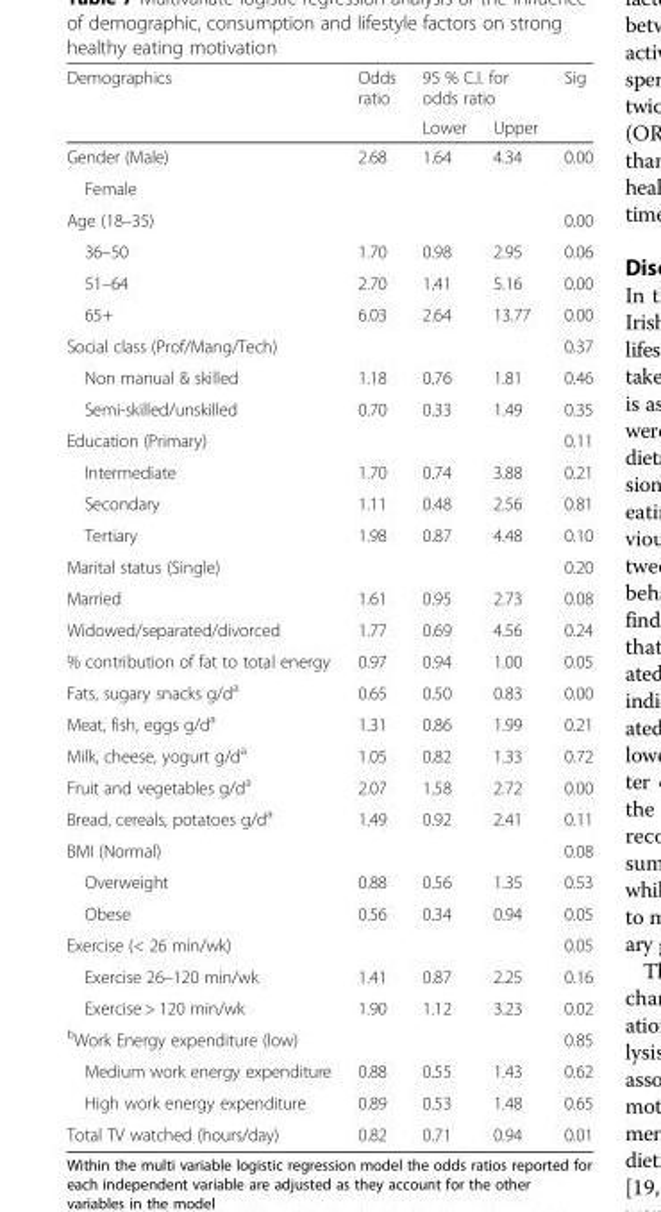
<table><thead><tr><td rowspan="2">Demographics</td><td rowspan="2">Odds ratio</td><td colspan="2">95 % C.I. for odds ratio</td><td rowspan="2">Sig</td></tr><tr><td>Lower</td><td>Upper</td></tr></thead><tbody><tr><td>Gender (Male)</td><td rowspan="2">2.68</td><td rowspan="2">1.64</td><td rowspan="2">4.34</td><td rowspan="2">0.00</td></tr><tr><td>Female</td></tr><tr><td>Age (18–35)</td><td></td><td></td><td></td><td>0.00</td></tr><tr><td>36–50</td><td>1.70</td><td>0.98</td><td>2.95</td><td>0.06</td></tr><tr><td>51–64</td><td>2.70</td><td>1.41</td><td>5.16</td><td>0.00</td></tr><tr><td>65+</td><td>6.03</td><td>2.64</td><td>13.77</td><td>0.00</td></tr><tr><td>Social class (Prof/Mang/Tech)</td><td></td><td></td><td></td><td>0.37</td></tr><tr><td>Non manual &amp; skilled</td><td>1.18</td><td>0.76</td><td>1.81</td><td>0.46</td></tr><tr><td>Semi-skilled/unskilled</td><td>0.70</td><td>0.33</td><td>1.49</td><td>0.35</td></tr><tr><td>Education (Primary)</td><td></td><td></td><td></td><td>0.11</td></tr><tr><td>Intermediate</td><td>1.70</td><td>0.74</td><td>3.88</td><td>0.21</td></tr><tr><td>Secondary</td><td>1.11</td><td>0.48</td><td>2.56</td><td>0.81</td></tr><tr><td>Tertiary</td><td>1.98</td><td>0.87</td><td>4.48</td><td>0.10</td></tr><tr><td>Marital status (Single)</td><td></td><td></td><td></td><td>0.20</td></tr><tr><td>Married</td><td>1.61</td><td>0.95</td><td>2.73</td><td>0.08</td></tr><tr><td>Widowed/separated/divorced</td><td>1.77</td><td>0.69</td><td>4.56</td><td>0.24</td></tr><tr><td>% contribution of fat to total energy</td><td>0.97</td><td>0.94</td><td>1.00</td><td>0.05</td></tr><tr><td>Fats, sugary snacks g/d<sup>a</sup></td><td>0.65</td><td>0.50</td><td>0.83</td><td>0.00</td></tr><tr><td>Meat, fish, eggs g/d<sup>a</sup></td><td>1.31</td><td>0.86</td><td>1.99</td><td>0.21</td></tr><tr><td>Milk, cheese, yogurt g/d<sup>a</sup></td><td>1.05</td><td>0.82</td><td>1.33</td><td>0.72</td></tr><tr><td>Fruit and vegetables g/d<sup>a</sup></td><td>2.07</td><td>1.58</td><td>2.72</td><td>0.00</td></tr><tr><td>Bread, cereals, potatoes g/d<sup>a</sup></td><td>1.49</td><td>0.92</td><td>2.41</td><td>0.11</td></tr><tr><td>BMI (Normal)</td><td></td><td></td><td></td><td>0.08</td></tr><tr><td>Overweight</td><td>0.88</td><td>0.56</td><td>1.35</td><td>0.53</td></tr><tr><td>Obese</td><td>0.56</td><td>0.34</td><td>0.94</td><td>0.05</td></tr><tr><td>Exercise (&lt; 26 min/wk)</td><td></td><td></td><td></td><td>0.05</td></tr><tr><td>Exercise 26–120 min/wk</td><td>1.41</td><td>0.87</td><td>2.25</td><td>0.16</td></tr><tr><td>Exercise &gt; 120 min/wk</td><td>1.90</td><td>1.12</td><td>3.23</td><td>0.02</td></tr><tr><td><sup>b</sup>Work Energy expenditure (low)</td><td></td><td></td><td></td><td>0.85</td></tr><tr><td>Medium work energy expenditure</td><td>0.88</td><td>0.55</td><td>1.43</td><td>0.62</td></tr><tr><td>High work energy expenditure</td><td>0.89</td><td>0.53</td><td>1.48</td><td>0.65</td></tr><tr><td>Total TV watched (hours/day)</td><td>0.82</td><td>0.71</td><td>0.94</td><td>0.01</td></tr></tbody></table>